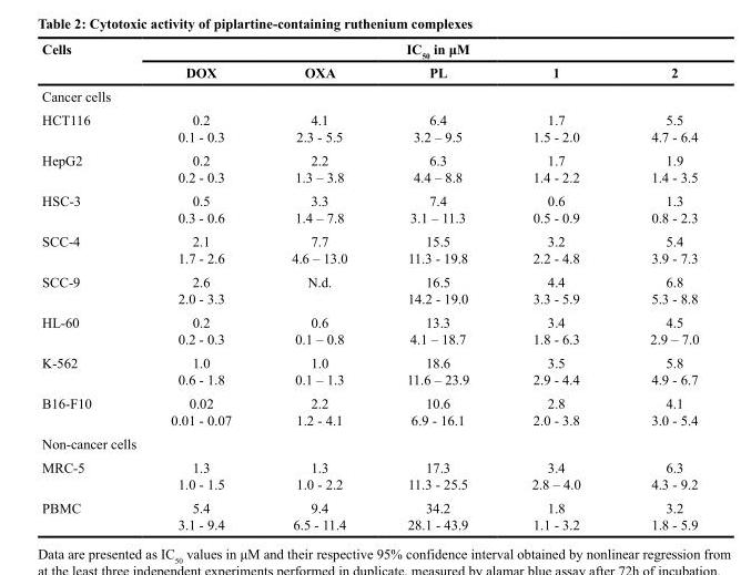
<table><thead><tr><td rowspan="2">Cells</td><td colspan="5">IC<sub>50</sub> in μM</td></tr><tr><td>DOX</td><td>OXA</td><td>PL</td><td>1</td><td>2</td></tr></thead><tbody><tr><td colspan="6">Cancer cells</td></tr><tr><td>HCT116</td><td>0.2 0.1 - 0.3</td><td>4.1 2.3 - 5.5</td><td>6.4 3.2 – 9.5</td><td>1.7 1.5 - 2.0</td><td>5.5 4.7 - 6.4</td></tr><tr><td>HepG2</td><td>0.2 0.2 - 0.3</td><td>2.2 1.3 – 3.8</td><td>6.3 4.4 – 8.8</td><td>1.7 1.4 - 2.2</td><td>1.9 1.4 - 3.5</td></tr><tr><td>HSC-3</td><td>0.5 0.3 - 0.6</td><td>3.3 1.4 – 7.8</td><td>7.4 3.1 – 11.3</td><td>0.6 0.5 - 0.9</td><td>1.3 0.8 - 2.3</td></tr><tr><td>SCC-4</td><td>2.1 1.7 - 2.6</td><td>7.7 4.6 – 13.0</td><td>15.5 11.3 - 19.8</td><td>3.2 2.2 - 4.8</td><td>5.4 3.9 - 7.3</td></tr><tr><td>SCC-9</td><td>2.6 2.0 - 3.3</td><td>N.d.</td><td>16.5 14.2 - 19.0</td><td>4.4 3.3 - 5.9</td><td>6.8 5.3 - 8.8</td></tr><tr><td>HL-60</td><td>0.2 0.2 - 0.3</td><td>0.6 0.1 – 0.8</td><td>13.3 4.1 – 18.7</td><td>3.4 1.8 - 6.3</td><td>4.5 2.9 – 7.0</td></tr><tr><td>K-562</td><td>1.0 0.6 - 1.8</td><td>1.0 0.1 – 1.3</td><td>18.6 11.6 – 23.9</td><td>3.5 2.9 - 4.4</td><td>5.8 4.9 - 6.7</td></tr><tr><td>B16-F10</td><td>0.02 0.01 - 0.07</td><td>2.2 1.2 - 4.1</td><td>10.6 6.9 - 16.1</td><td>2.8 2.0 - 3.8</td><td>4.1 3.0 - 5.4</td></tr><tr><td colspan="6">Non-cancer cells</td></tr><tr><td>MRC-5</td><td>1.3 1.0 - 1.5</td><td>1.3 1.0 - 2.2</td><td>17.3 11.3 - 25.5</td><td>3.4 2.8 – 4.0</td><td>6.3 4.3 - 9.2</td></tr><tr><td>PBMC</td><td>5.4 3.1 - 9.4</td><td>9.4 6.5 - 11.4</td><td>34.2 28.1 - 43.9</td><td>1.8 1.1 - 3.2</td><td>3.2 1.8 - 5.9</td></tr></tbody></table>